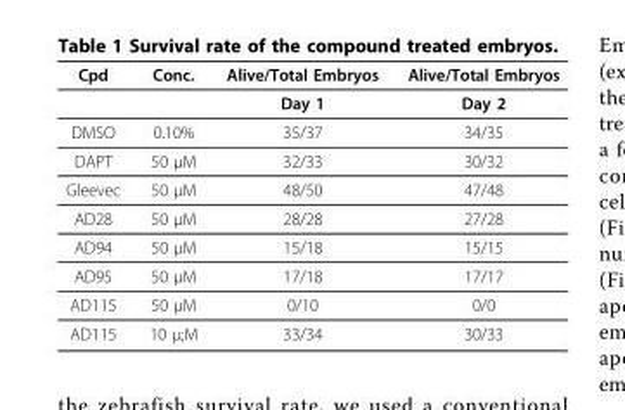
<table><thead><tr><td>Cpd</td><td>Conc.</td><td>Alive/Total Embryos</td><td>Alive/Total Embryos</td></tr></thead><tbody><tr><td></td><td></td><td>Day 1</td><td>Day 2</td></tr><tr><td>DMSO</td><td>0.10%</td><td>35/37</td><td>34/35</td></tr><tr><td>DAPT</td><td>50 μM</td><td>32/33</td><td>30/32</td></tr><tr><td>Gleevec</td><td>50 μM</td><td>48/50</td><td>47/48</td></tr><tr><td>AD28</td><td>50 μM</td><td>28/28</td><td>27/28</td></tr><tr><td>AD94</td><td>50 μM</td><td>15/18</td><td>15/15</td></tr><tr><td>AD95</td><td>50 μM</td><td>17/18</td><td>17/17</td></tr><tr><td>AD115</td><td>50 μM</td><td>0/10</td><td>0/0</td></tr><tr><td>AD115</td><td>10 μ;M</td><td>33/34</td><td>30/33</td></tr></tbody></table>